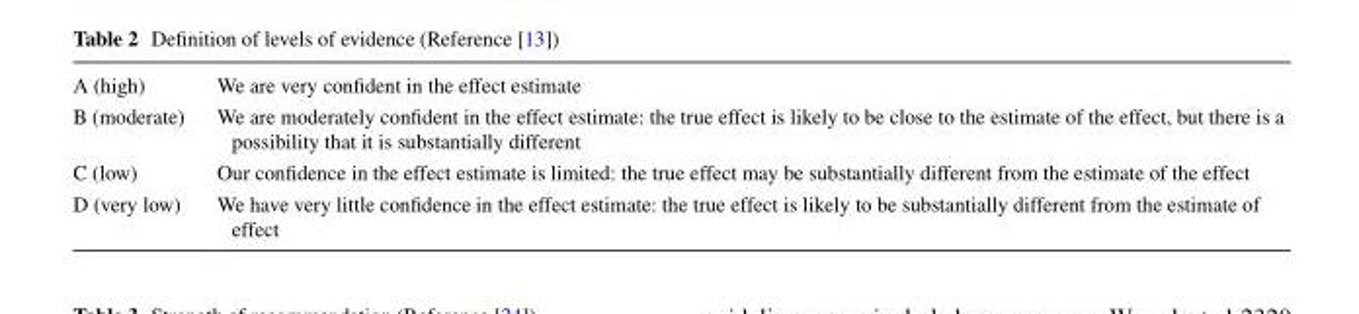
<table><tbody><tr><td>A (high)</td><td>We are very confident in the effect estimate</td></tr><tr><td>B (moderate)</td><td>We are moderately confident in the effect estimate: the true effect is likely to be close to the estimate of the effect, but there is a possibility that it is substantially different</td></tr><tr><td>C (low)</td><td>Our confidence in the effect estimate is limited: the true effect may be substantially different from the estimate of the effect</td></tr><tr><td>D (very low)</td><td>We have very little confidence in the effect estimate: the true effect is likely to be substantially different from the estimate of effect</td></tr></tbody></table>